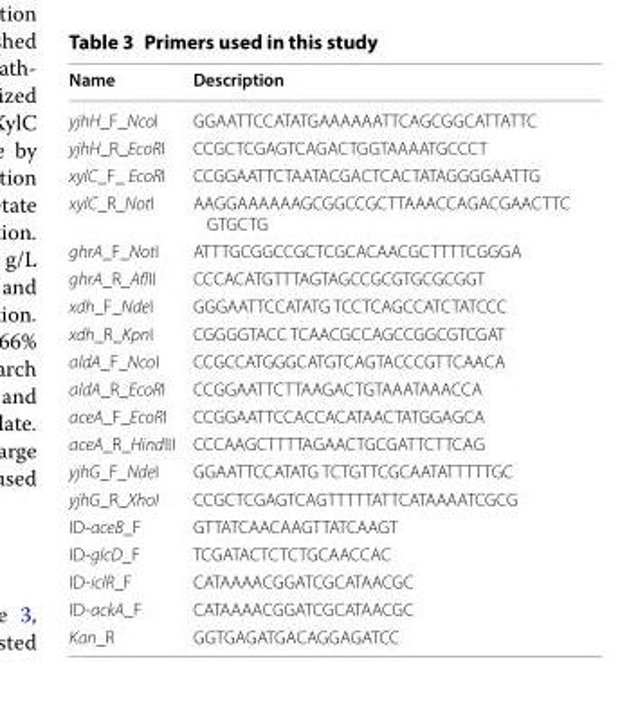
<table><thead><tr><td>Name</td><td>Description</td></tr></thead><tbody><tr><td>yjhH_F_NcoI</td><td>GGA ATT CCA TAT GAA AAA ATT CAG CGG CAT TATTC</td></tr><tr><td>yjhH_R_EcoRI</td><td>CCG CTC GAG TCA GAC TGG TAA AAT GCCCT</td></tr><tr><td>xylC_F_ EcoRI</td><td>CCG GAA TTC TAA TAC GAC TCA CTA TAG GGG AATTG</td></tr><tr><td>xylC_R_NotI</td><td>AAG GAA AAA AGC GGC CGC TTA AAC CAG ACG AAC TTC GTG CTG</td></tr><tr><td>ghrA_F_NotI</td><td>ATT TGC GGC CGC TCG CAC AAC GCT TTT CGG GA</td></tr><tr><td>ghrA_R_AflII</td><td>CCC ACA TGT TTA GTA GCC GCG TGC GCGGT</td></tr><tr><td>xdh_F_NdeI</td><td>GGG AAT TCC ATA TG TCC TCA GCC ATC TAT CCC</td></tr><tr><td>xdh_R_KpnI</td><td>CGG GGT ACC TCA ACG CCA GCC GGC GTC GAT</td></tr><tr><td>aldA_F_NcoI</td><td>CCG CCA TGG GCA TGT CAG TAC CCG TTC AAC A</td></tr><tr><td>aldA_R_EcoRI</td><td>CCG GAA TTC TTA AGA CTG TAA ATA AACCA</td></tr><tr><td>aceA_F_EcoRI</td><td>CCG GAA TTC CAC CAC ATA ACT ATG GAGCA</td></tr><tr><td>aceA_R_HindIII</td><td>CCC AAG CTT TTA GAA CTG CGA TTC TTCAG</td></tr><tr><td>yjhG_F_NdeI</td><td>GGA ATT CCA TAT G TCT GTT CGC AAT ATT TTT GC</td></tr><tr><td>yjhG_R_XhoI</td><td>CCG CTC GAG TCA GTT TTT ATT CAT AAA ATC GCG</td></tr><tr><td>ID-aceB_F</td><td>GTT ATC AAC AAG TTA TCA AGT</td></tr><tr><td>ID-glcD_F</td><td>TCG ATA CTC TCT GCA ACC AC</td></tr><tr><td>ID-iclR_F</td><td>CAT AAA ACG GAT CGC ATA ACGC</td></tr><tr><td>ID-ackA_F</td><td>CAT AAA ACG GAT CGC ATA ACGC</td></tr><tr><td>Kan_R</td><td>GGT GAG ATG ACA GGA GAT CC</td></tr></tbody></table>